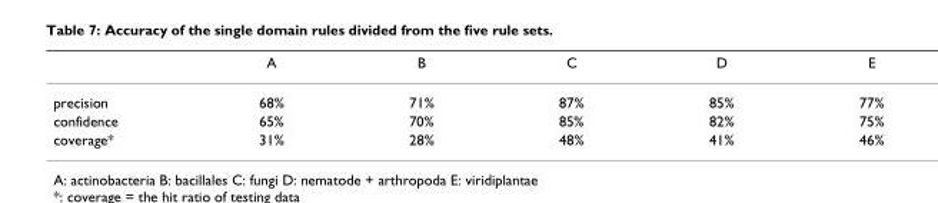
<table><thead><tr><td></td><td>A</td><td>B</td><td>C</td><td>D</td><td>E</td></tr></thead><tbody><tr><td>precision</td><td>68%</td><td>71%</td><td>87%</td><td>85%</td><td>77%</td></tr><tr><td>confidence</td><td>65%</td><td>70%</td><td>85%</td><td>82%</td><td>75%</td></tr><tr><td>coverage*</td><td>31%</td><td>28%</td><td>48%</td><td>41%</td><td>46%</td></tr></tbody></table>